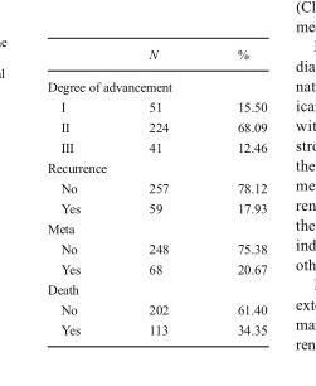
<table><thead><tr><td></td><td>N</td><td>%</td></tr></thead><tbody><tr><td colspan="3">Degree of advancement</td></tr><tr><td>I</td><td>51</td><td>15.50</td></tr><tr><td>II</td><td>224</td><td>68.09</td></tr><tr><td>III</td><td>41</td><td>12.46</td></tr><tr><td colspan="3">Recurrence</td></tr><tr><td>No</td><td>257</td><td>78.12</td></tr><tr><td>Yes</td><td>59</td><td>17.93</td></tr><tr><td colspan="3">Meta</td></tr><tr><td>No</td><td>248</td><td>75.38</td></tr><tr><td>Yes</td><td>68</td><td>20.67</td></tr><tr><td colspan="3">Death</td></tr><tr><td>No</td><td>202</td><td>61.40</td></tr><tr><td>Yes</td><td>113</td><td>34.35</td></tr></tbody></table>